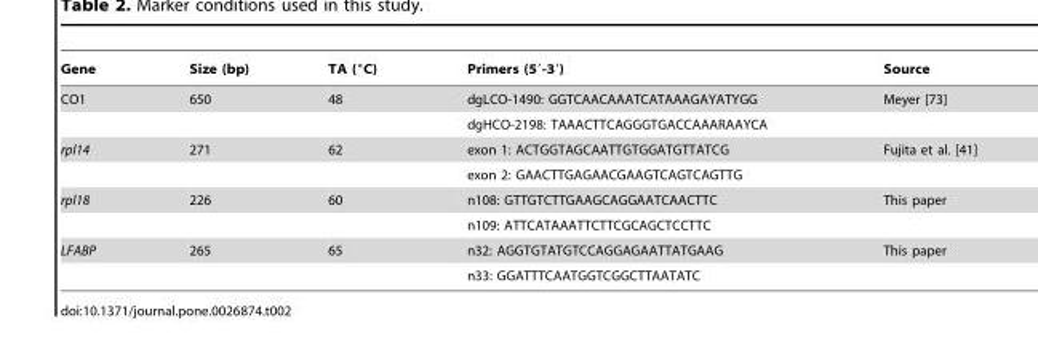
<table><thead><tr><td>Gene</td><td>Size (bp)</td><td>TA (°C)</td><td>Primers (5′-3′)</td><td>Source</td></tr></thead><tbody><tr><td rowspan="2">CO1</td><td>650</td><td>48</td><td>dgLCO-1490: GGTCAACAAATCATAAAGAYATYGG</td><td>Meyer [73]</td></tr><tr><td></td><td></td><td>dgHCO-2198: TAAACTTCAGGGTGACCAAARAAYCA</td><td></td></tr><tr><td rowspan="2">rpl14</td><td>271</td><td>62</td><td>exon 1: ACTGGTAGCAATTGTGGATGTTATCG</td><td>Fujita et al. [41]</td></tr><tr><td></td><td></td><td>exon 2: GAACTTGAGAACGAAGTCAGTCAGTTG</td><td></td></tr><tr><td rowspan="2">rpl18</td><td>226</td><td>60</td><td>n108: GTTGTCTTGAAGCAGGAATCAACTTC</td><td>This paper</td></tr><tr><td></td><td></td><td>n109: ATTCATAAATTCTTCGCAGCTCCTTC</td><td></td></tr><tr><td rowspan="2">LFABP</td><td>265</td><td>65</td><td>n32: AGGTGTATGTCCAGGAGAATTATGAAG</td><td>This paper</td></tr><tr><td></td><td></td><td>n33: GGATTTCAATGGTCGGCTTAATATC</td><td></td></tr></tbody></table>